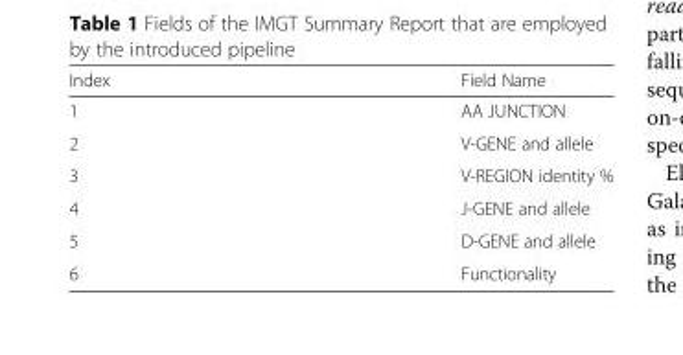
<table><thead><tr><td>Index</td><td>Field Name</td></tr></thead><tbody><tr><td>1</td><td>AA JUNCTION</td></tr><tr><td>2</td><td>V-GENE and allele</td></tr><tr><td>3</td><td>V-REGION identity %</td></tr><tr><td>4</td><td>J-GENE and allele</td></tr><tr><td>5</td><td>D-GENE and allele</td></tr><tr><td>6</td><td>Functionality</td></tr></tbody></table>